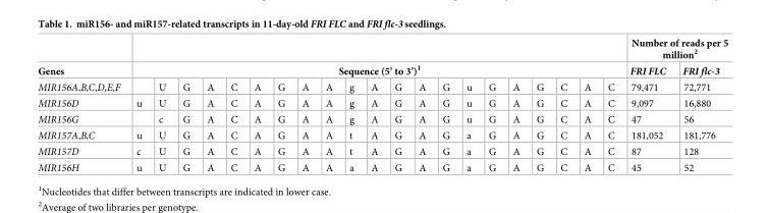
<table><thead><tr><td rowspan="2">Genes</td><td></td><td></td><td></td><td></td><td></td><td></td><td></td><td></td><td></td><td></td><td></td><td></td><td></td><td></td><td></td><td></td><td></td><td></td><td></td><td></td><td></td><td colspan="2">Number of reads per 5 million<sup>2</sup></td></tr><tr><td colspan="21">Sequence (5’ to 3’)<sup>1</sup></td><td>FRI FLC</td><td>FRI flc-3</td></tr></thead><tbody><tr><td>MIR156A,B,C,D,E,F</td><td></td><td>U</td><td>G</td><td>A</td><td>C</td><td>A</td><td>G</td><td>A</td><td>A</td><td>g</td><td>A</td><td>G</td><td>A</td><td>G</td><td>u</td><td>G</td><td>A</td><td>G</td><td>C</td><td>A</td><td>C</td><td>79,471</td><td>72,771</td></tr><tr><td>MIR156D</td><td>u</td><td>U</td><td>G</td><td>A</td><td>C</td><td>A</td><td>G</td><td>A</td><td>A</td><td>g</td><td>A</td><td>G</td><td>A</td><td>G</td><td>u</td><td>G</td><td>A</td><td>G</td><td>C</td><td>A</td><td>C</td><td>9,097</td><td>16,880</td></tr><tr><td>MIR156G</td><td></td><td>c</td><td>G</td><td>A</td><td>C</td><td>A</td><td>G</td><td>A</td><td>A</td><td>g</td><td>A</td><td>G</td><td>A</td><td>G</td><td>u</td><td>G</td><td>A</td><td>G</td><td>C</td><td>A</td><td>C</td><td>47</td><td>56</td></tr><tr><td>MIR157A,B,C</td><td>u</td><td>U</td><td>G</td><td>A</td><td>C</td><td>A</td><td>G</td><td>A</td><td>A</td><td>t</td><td>A</td><td>G</td><td>A</td><td>G</td><td>a</td><td>G</td><td>A</td><td>G</td><td>C</td><td>A</td><td>C</td><td>181,052</td><td>181,776</td></tr><tr><td>MIR157D</td><td>c</td><td>U</td><td>G</td><td>A</td><td>C</td><td>A</td><td>G</td><td>A</td><td>A</td><td>t</td><td>A</td><td>G</td><td>A</td><td>G</td><td>a</td><td>G</td><td>A</td><td>G</td><td>C</td><td>A</td><td>C</td><td>87</td><td>128</td></tr><tr><td>MIR156H</td><td>u</td><td>U</td><td>G</td><td>A</td><td>C</td><td>A</td><td>G</td><td>A</td><td>A</td><td>a</td><td>A</td><td>G</td><td>A</td><td>G</td><td>a</td><td>G</td><td>A</td><td>G</td><td>C</td><td>A</td><td>C</td><td>45</td><td>52</td></tr></tbody></table>